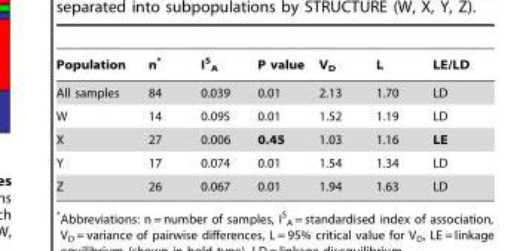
<table><thead><tr><td>Population</td><td>n*</td><td>I<sup>S</sup> <sub>A</sub></td><td>P value</td><td>V<sub>D</sub></td><td>L</td><td>LE/LD</td></tr></thead><tbody><tr><td>All samples</td><td>84</td><td>0.039</td><td>0.01</td><td>2.13</td><td>1.70</td><td>LD</td></tr><tr><td>W</td><td>14</td><td>0.095</td><td>0.01</td><td>1.52</td><td>1.19</td><td>LD</td></tr><tr><td>X</td><td>27</td><td>0.006</td><td>0.45</td><td>1.03</td><td>1.16</td><td>LE</td></tr><tr><td>Y</td><td>17</td><td>0.074</td><td>0.01</td><td>1.54</td><td>1.34</td><td>LD</td></tr><tr><td>Z</td><td>26</td><td>0.067</td><td>0.01</td><td>1.94</td><td>1.63</td><td>LD</td></tr></tbody></table>